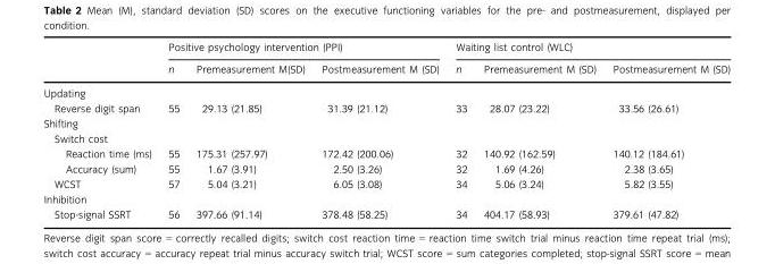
<table><thead><tr><td rowspan="2"></td><td colspan="3">Positive psychology intervention (PPI)</td><td colspan="3">Waiting list control (WLC)</td></tr><tr><td>n</td><td>Premeasurement M(SD)</td><td>Postmeasurement M (SD)</td><td>n</td><td>Premeasurement M (SD)</td><td>Postmeasurement M (SD)</td></tr></thead><tbody><tr><td colspan="7">Updating</td></tr><tr><td>Reverse digit span</td><td>55</td><td>29.13 (21.85)</td><td>31.39 (21.12)</td><td>33</td><td>28.07 (23.22)</td><td>33.56 (26.61)</td></tr><tr><td colspan="7">Shifting</td></tr><tr><td colspan="7">Switch cost</td></tr><tr><td>Reaction time (ms)</td><td>55</td><td>175.31 (257.97)</td><td>172.42 (200.06)</td><td>32</td><td>140.92 (162.59)</td><td>140.12 (184.61)</td></tr><tr><td>Accuracy (sum)</td><td>55</td><td>1.67 (3.91)</td><td>2.50 (3.26)</td><td>32</td><td>1.69 (4.26)</td><td>2.38 (3.65)</td></tr><tr><td>WCST</td><td>57</td><td>5.04 (3.21)</td><td>6.05 (3.08)</td><td>34</td><td>5.06 (3.24)</td><td>5.82 (3.55)</td></tr><tr><td colspan="7">Inhibition</td></tr><tr><td>Stop-signal SSRT</td><td>56</td><td>397.66 (91.14)</td><td>378.48 (58.25)</td><td>34</td><td>404.17 (58.93)</td><td>379.61 (47.82)</td></tr></tbody></table>